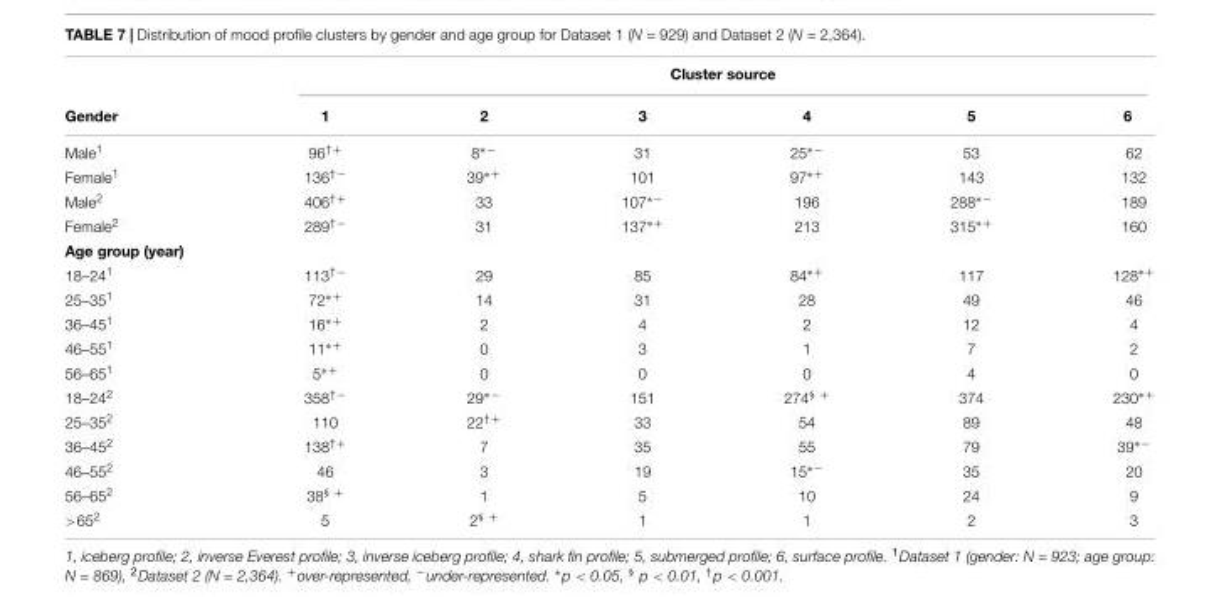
<table><thead><tr><td rowspan="2">Gender</td><td colspan="6">Cluster source</td></tr><tr><td>1</td><td>2</td><td>3</td><td>4</td><td>5</td><td>6</td></tr></thead><tbody><tr><td>Male<sup>1</sup></td><td>96<sup>†+</sup></td><td>8<sup>∗−</sup></td><td>31</td><td>25<sup>∗−</sup></td><td>53</td><td>62</td></tr><tr><td>Female<sup>1</sup></td><td>136<sup>†−</sup></td><td>39<sup>∗+</sup></td><td>101</td><td>97<sup>∗+</sup></td><td>143</td><td>132</td></tr><tr><td>Male<sup>2</sup></td><td>406<sup>†+</sup></td><td>33</td><td>107<sup>∗−</sup></td><td>196</td><td>288<sup>∗−</sup></td><td>189</td></tr><tr><td>Female<sup>2</sup></td><td>289<sup>†−</sup></td><td>31</td><td>137<sup>∗+</sup></td><td>213</td><td>315<sup>∗+</sup></td><td>160</td></tr><tr><td colspan="7">Age group (year)</td></tr><tr><td>18–24<sup>1</sup></td><td>113<sup>†−</sup></td><td>29</td><td>85</td><td>84<sup>∗+</sup></td><td>117</td><td>128<sup>∗+</sup></td></tr><tr><td>25–35<sup>1</sup></td><td>72<sup>∗+</sup></td><td>14</td><td>31</td><td>28</td><td>49</td><td>46</td></tr><tr><td>36–45<sup>1</sup></td><td>16<sup>∗+</sup></td><td>2</td><td>4</td><td>2</td><td>12</td><td>4</td></tr><tr><td>46–55<sup>1</sup></td><td>11<sup>∗+</sup></td><td>0</td><td>3</td><td>1</td><td>7</td><td>2</td></tr><tr><td>56–65<sup>1</sup></td><td>5<sup>∗+</sup></td><td>0</td><td>0</td><td>0</td><td>4</td><td>0</td></tr><tr><td>18–24<sup>2</sup></td><td>358<sup>†−</sup></td><td>29<sup>∗−</sup></td><td>151</td><td>274<sup>§ +</sup></td><td>374</td><td>230<sup>∗+</sup></td></tr><tr><td>25–35<sup>2</sup></td><td>110</td><td>22<sup>†+</sup></td><td>33</td><td>54</td><td>89</td><td>48</td></tr><tr><td>36–45<sup>2</sup></td><td>138<sup>†+</sup></td><td>7</td><td>35</td><td>55</td><td>79</td><td>39<sup>∗−</sup></td></tr><tr><td>46–55<sup>2</sup></td><td>46</td><td>3</td><td>19</td><td>15<sup>∗−</sup></td><td>35</td><td>20</td></tr><tr><td>56–65<sup>2</sup></td><td>38<sup>§ +</sup></td><td>1</td><td>5</td><td>10</td><td>24</td><td>9</td></tr><tr><td>&gt;65<sup>2</sup></td><td>5</td><td>2<sup>§ +</sup></td><td>1</td><td>1</td><td>2</td><td>3</td></tr></tbody></table>